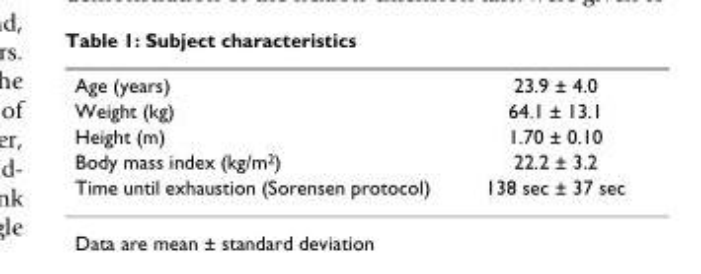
<table><tbody><tr><td>Age (years)</td><td>23.9 ± 4.0</td></tr><tr><td>Weight (kg)</td><td>64.1 ± 13.1</td></tr><tr><td>Height (m)</td><td>1.70 ± 0.10</td></tr><tr><td>Body mass index (kg/m<sup>2</sup>)</td><td>22.2 ± 3.2</td></tr><tr><td>Time until exhaustion (Sorensen protocol)</td><td>138 sec ± 37 sec</td></tr></tbody></table>